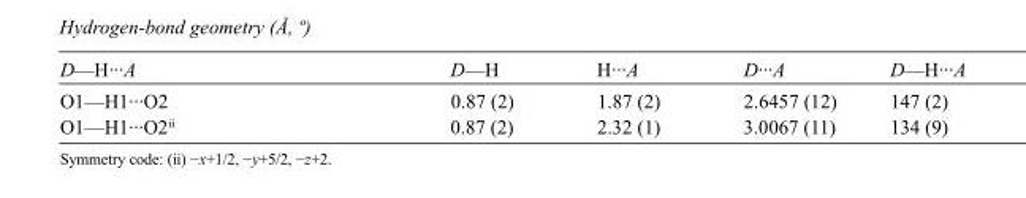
<table><tbody><tr><td>D—H···A</td><td>D—H</td><td>H···A</td><td>D···A</td><td>D—H···A</td></tr><tr><td>O1—H1···O2</td><td>0.87 (2)</td><td>1.87 (2)</td><td>2.6457 (12)</td><td>147 (2)</td></tr><tr><td>O1—H1···O2<sup>ii</sup></td><td>0.87 (2)</td><td>2.32 (1)</td><td>3.0067 (11)</td><td>134 (9)</td></tr></tbody></table>